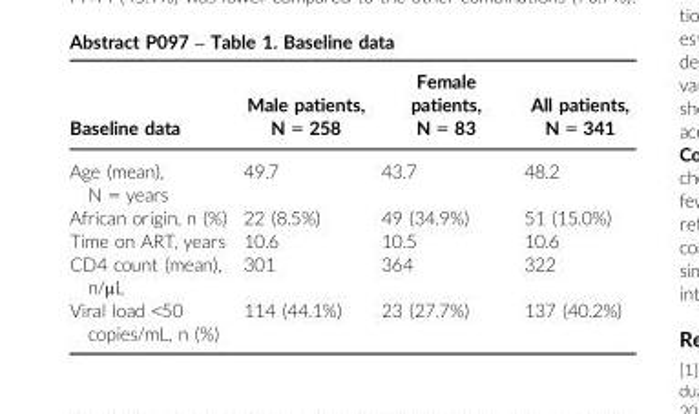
<table><thead><tr><td>Baseline data</td><td>Male patients, N = 258</td><td>Female patients, N = 83</td><td>All patients, N = 341</td></tr></thead><tbody><tr><td>Age (mean), N = years</td><td>49.7</td><td>43.7</td><td>48.2</td></tr><tr><td>African origin, n (%)</td><td>22 (8.5%)</td><td>49 (34.9%)</td><td>51 (15.0%)</td></tr><tr><td>Time on ART, years</td><td>10.6</td><td>10.5</td><td>10.6</td></tr><tr><td>CD4 count (mean), n/μL</td><td>301</td><td>364</td><td>322</td></tr><tr><td>Viral load &lt;50 copies/mL, n (%)</td><td>114 (44.1%)</td><td>23 (27.7%)</td><td>137 (40.2%)</td></tr></tbody></table>